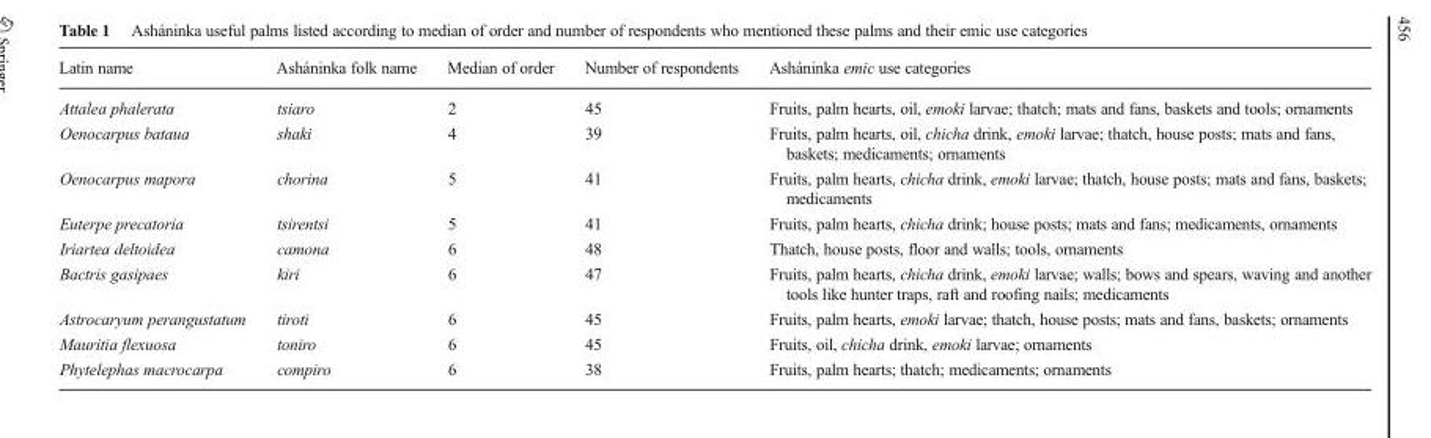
<table><thead><tr><td>Latin name</td><td>Asháninka folk name</td><td>Median of order</td><td>Number of respondents</td><td>Asháninka emic use categories</td></tr></thead><tbody><tr><td>Attalea phalerata</td><td>tsiaro</td><td>2</td><td>45</td><td>Fruits, palm hearts, oil, emoki larvae; thatch; mats and fans, baskets and tools; ornaments</td></tr><tr><td>Oenocarpus bataua</td><td>shaki</td><td>4</td><td>39</td><td>Fruits, palm hearts, oil, chicha drink, emoki larvae; thatch, house posts; mats and fans, baskets; medicaments; ornaments</td></tr><tr><td>Oenocarpus mapora</td><td>chorina</td><td>5</td><td>41</td><td>Fruits, palm hearts, chicha drink, emoki larvae; thatch, house posts; mats and fans, baskets; medicaments</td></tr><tr><td>Euterpe precatoria</td><td>tsirentsi</td><td>5</td><td>41</td><td>Fruits, palm hearts, chicha drink; house posts; mats and fans; medicaments, ornaments</td></tr><tr><td>Iriartea deltoidea</td><td>camona</td><td>6</td><td>48</td><td>Thatch, house posts, floor and walls; tools, ornaments</td></tr><tr><td>Bactris gasipaes</td><td>kiri</td><td>6</td><td>47</td><td>Fruits, palm hearts, chicha drink, emoki larvae; walls; bows and spears, waving and another tools like hunter traps, raft and roofing nails; medicaments</td></tr><tr><td>Astrocaryum perangustatum</td><td>tiroti</td><td>6</td><td>45</td><td>Fruits, palm hearts, emoki larvae; thatch, house posts; mats and fans, baskets; ornaments</td></tr><tr><td>Mauritia flexuosa</td><td>toniro</td><td>6</td><td>45</td><td>Fruits, oil, chicha drink, emoki larvae; ornaments</td></tr><tr><td>Phytelephas macrocarpa</td><td>compiro</td><td>6</td><td>38</td><td>Fruits, palm hearts; thatch; medicaments; ornaments</td></tr></tbody></table>